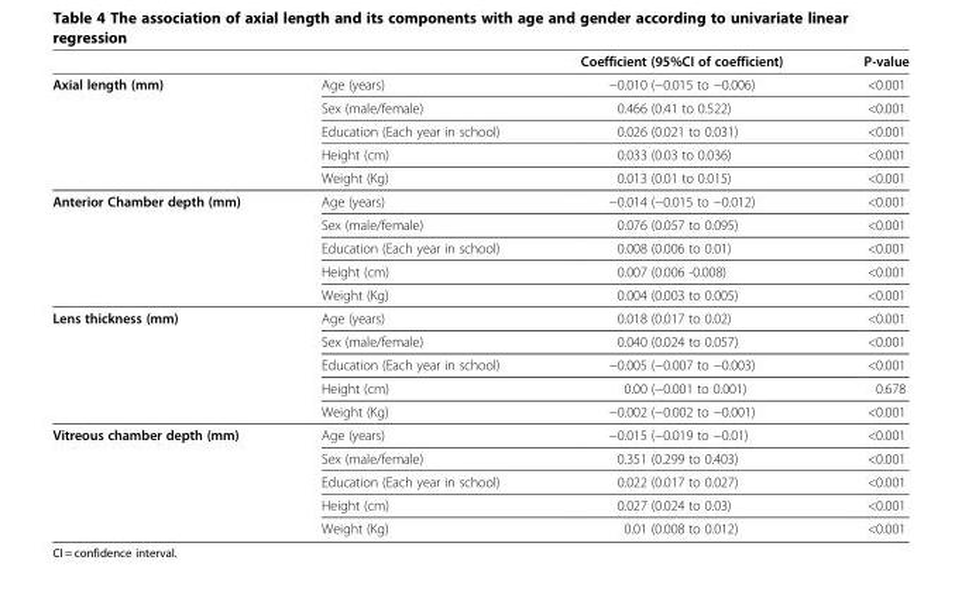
<table><thead><tr><td></td><td></td><td>Coefficient (95%CI of coefficient)</td><td>P-value</td></tr></thead><tbody><tr><td rowspan="5">Axial length (mm)</td><td>Age (years)</td><td>−0.010 (−0.015 to −0.006)</td><td>&lt;0.001</td></tr><tr><td>Sex (male/female)</td><td>0.466 (0.41 to 0.522)</td><td>&lt;0.001</td></tr><tr><td>Education (Each year in school)</td><td>0.026 (0.021 to 0.031)</td><td>&lt;0.001</td></tr><tr><td>Height (cm)</td><td>0.033 (0.03 to 0.036)</td><td>&lt;0.001</td></tr><tr><td>Weight (Kg)</td><td>0.013 (0.01 to 0.015)</td><td>&lt;0.001</td></tr><tr><td rowspan="5">Anterior Chamber depth (mm)</td><td>Age (years)</td><td>−0.014 (−0.015 to −0.012)</td><td>&lt;0.001</td></tr><tr><td>Sex (male/female)</td><td>0.076 (0.057 to 0.095)</td><td>&lt;0.001</td></tr><tr><td>Education (Each year in school)</td><td>0.008 (0.006 to 0.01)</td><td>&lt;0.001</td></tr><tr><td>Height (cm)</td><td>0.007 (0.006 -0.008)</td><td>&lt;0.001</td></tr><tr><td>Weight (Kg)</td><td>0.004 (0.003 to 0.005)</td><td>&lt;0.001</td></tr><tr><td rowspan="5">Lens thickness (mm)</td><td>Age (years)</td><td>0.018 (0.017 to 0.02)</td><td>&lt;0.001</td></tr><tr><td>Sex (male/female)</td><td>0.040 (0.024 to 0.057)</td><td>&lt;0.001</td></tr><tr><td>Education (Each year in school)</td><td>−0.005 (−0.007 to −0.003)</td><td>&lt;0.001</td></tr><tr><td>Height (cm)</td><td>0.00 (−0.001 to 0.001)</td><td>0.678</td></tr><tr><td>Weight (Kg)</td><td>−0.002 (−0.002 to −0.001)</td><td>&lt;0.001</td></tr><tr><td rowspan="5">Vitreous chamber depth (mm)</td><td>Age (years)</td><td>−0.015 (−0.019 to −0.01)</td><td>&lt;0.001</td></tr><tr><td>Sex (male/female)</td><td>0.351 (0.299 to 0.403)</td><td>&lt;0.001</td></tr><tr><td>Education (Each year in school)</td><td>0.022 (0.017 to 0.027)</td><td>&lt;0.001</td></tr><tr><td>Height (cm)</td><td>0.027 (0.024 to 0.03)</td><td>&lt;0.001</td></tr><tr><td>Weight (Kg)</td><td>0.01 (0.008 to 0.012)</td><td>&lt;0.001</td></tr></tbody></table>